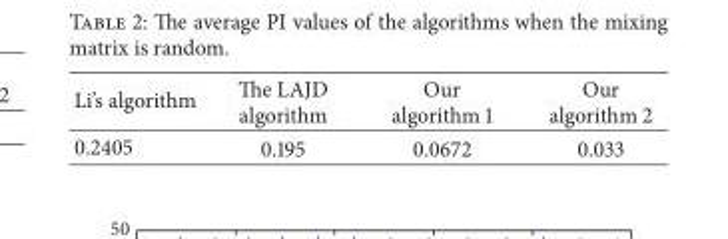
<table><thead><tr><td>Li’s algorithm</td><td>The LAJD algorithm</td><td>Our algorithm 1</td><td>Our algorithm 2</td></tr></thead><tbody><tr><td>0.2405</td><td>0.195</td><td>0.0672</td><td>0.033</td></tr></tbody></table>